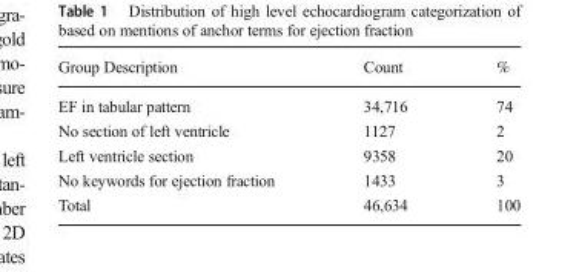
<table><thead><tr><td>Group Description</td><td>Count</td><td>%</td></tr></thead><tbody><tr><td>EF in tabular pattern</td><td>34,716</td><td>74</td></tr><tr><td>No section of left ventricle</td><td>1127</td><td>2</td></tr><tr><td>Left ventricle section</td><td>9358</td><td>20</td></tr><tr><td>No keywords for ejection fraction</td><td>1433</td><td>3</td></tr><tr><td>Total</td><td>46,634</td><td>100</td></tr></tbody></table>